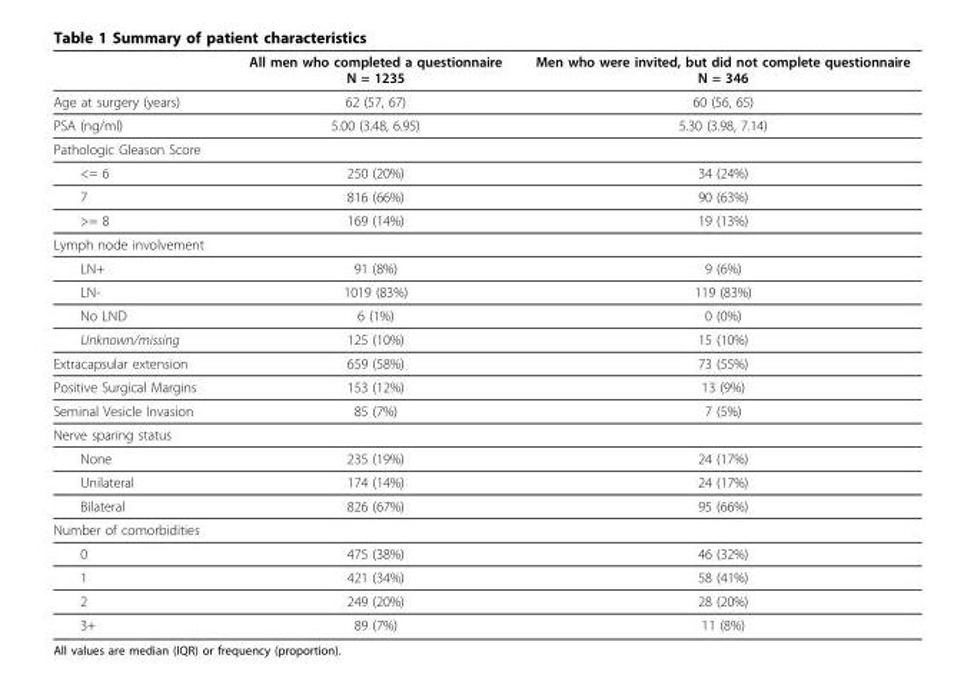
<table><thead><tr><td></td><td>All men who completed a questionnaire N = 1235</td><td>Men who were invited, but did not complete questionnaire N = 346</td></tr></thead><tbody><tr><td>Age at surgery (years)</td><td>62 (57, 67)</td><td>60 (56, 65)</td></tr><tr><td>PSA (ng/ml)</td><td>5.00 (3.48, 6.95)</td><td>5.30 (3.98, 7.14)</td></tr><tr><td colspan="3">Pathologic Gleason Score</td></tr><tr><td>&lt;= 6</td><td>250 (20%)</td><td>34 (24%)</td></tr><tr><td>7</td><td>816 (66%)</td><td>90 (63%)</td></tr><tr><td>&gt;= 8</td><td>169 (14%)</td><td>19 (13%)</td></tr><tr><td colspan="3">Lymph node involvement</td></tr><tr><td>LN+</td><td>91 (8%)</td><td>9 (6%)</td></tr><tr><td>LN-</td><td>1019 (83%)</td><td>119 (83%)</td></tr><tr><td>No LND</td><td>6 (1%)</td><td>0 (0%)</td></tr><tr><td>Unknown/missing</td><td>125 (10%)</td><td>15 (10%)</td></tr><tr><td>Extracapsular extension</td><td>659 (58%)</td><td>73 (55%)</td></tr><tr><td>Positive Surgical Margins</td><td>153 (12%)</td><td>13 (9%)</td></tr><tr><td>Seminal Vesicle Invasion</td><td>85 (7%)</td><td>7 (5%)</td></tr><tr><td colspan="3">Nerve sparing status</td></tr><tr><td>None</td><td>235 (19%)</td><td>24 (17%)</td></tr><tr><td>Unilateral</td><td>174 (14%)</td><td>24 (17%)</td></tr><tr><td>Bilateral</td><td>826 (67%)</td><td>95 (66%)</td></tr><tr><td colspan="3">Number of comorbidities</td></tr><tr><td>0</td><td>475 (38%)</td><td>46 (32%)</td></tr><tr><td>1</td><td>421 (34%)</td><td>58 (41%)</td></tr><tr><td>2</td><td>249 (20%)</td><td>28 (20%)</td></tr><tr><td>3+</td><td>89 (7%)</td><td>11 (8%)</td></tr></tbody></table>